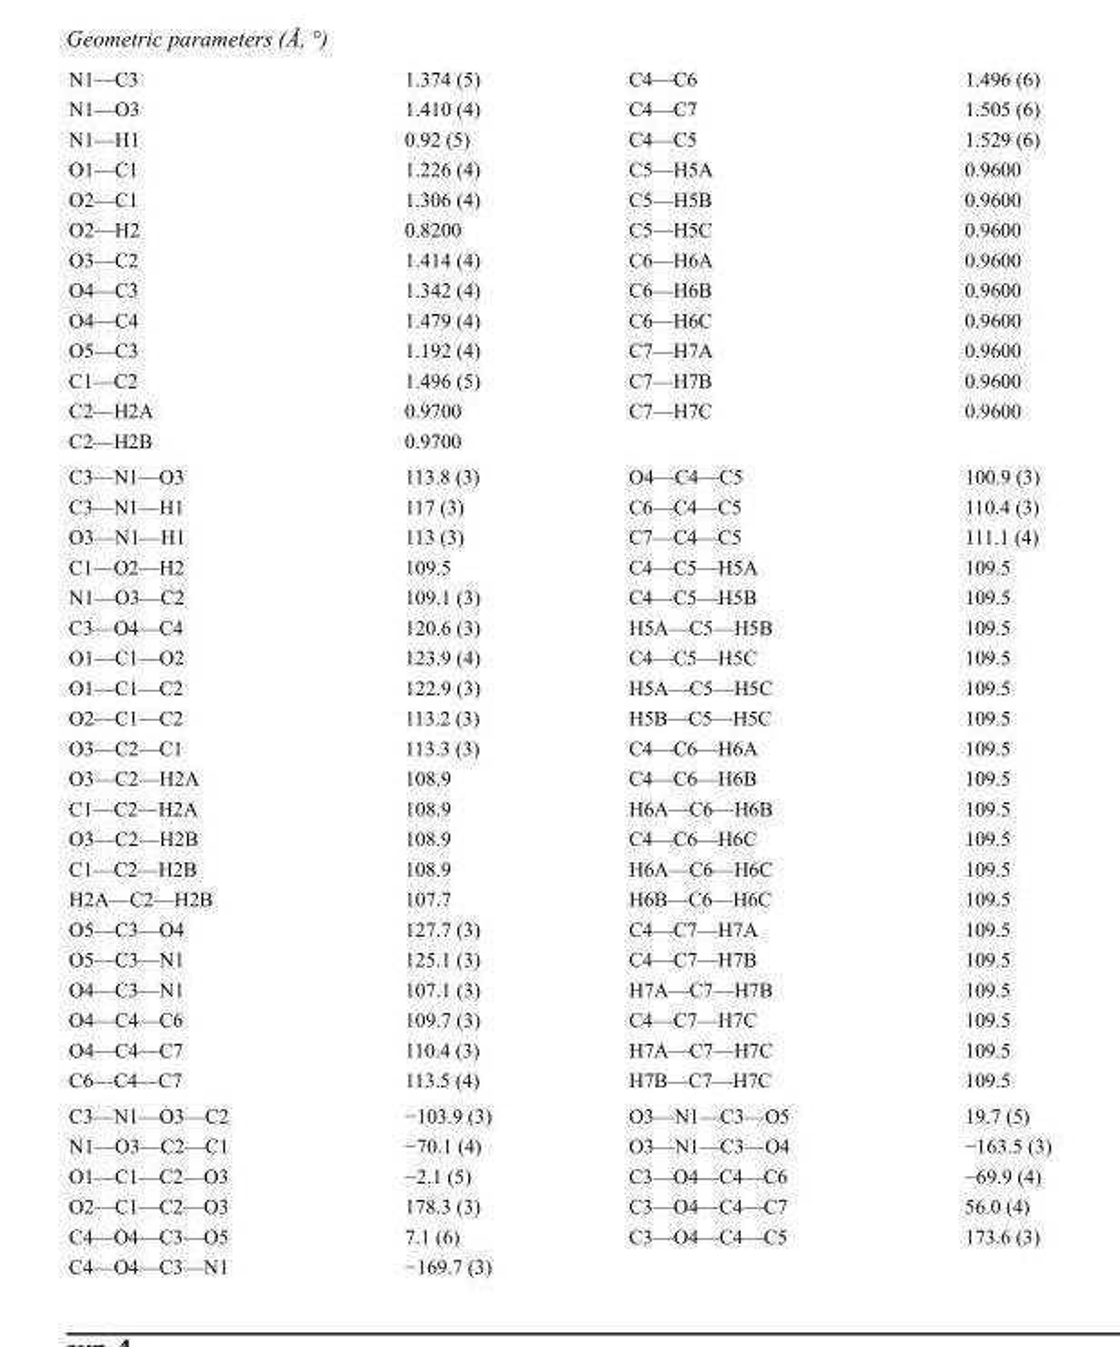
<table><tbody><tr><td>N1—C3</td><td>1.374 (5)</td><td>C4—C6</td><td>1.496 (6)</td></tr><tr><td>N1—O3</td><td>1.410 (4)</td><td>C4—C7</td><td>1.505 (6)</td></tr><tr><td>N1—H1</td><td>0.92 (5)</td><td>C4—C5</td><td>1.529 (6)</td></tr><tr><td>O1—C1</td><td>1.226 (4)</td><td>C5—H5A</td><td>0.9600</td></tr><tr><td>O2—C1</td><td>1.306 (4)</td><td>C5—H5B</td><td>0.9600</td></tr><tr><td>O2—H2</td><td>0.8200</td><td>C5—H5C</td><td>0.9600</td></tr><tr><td>O3—C2</td><td>1.414 (4)</td><td>C6—H6A</td><td>0.9600</td></tr><tr><td>O4—C3</td><td>1.342 (4)</td><td>C6—H6B</td><td>0.9600</td></tr><tr><td>O4—C4</td><td>1.479 (4)</td><td>C6—H6C</td><td>0.9600</td></tr><tr><td>O5—C3</td><td>1.192 (4)</td><td>C7—H7A</td><td>0.9600</td></tr><tr><td>C1—C2</td><td>1.496 (5)</td><td>C7—H7B</td><td>0.9600</td></tr><tr><td>C2—H2A</td><td>0.9700</td><td>C7—H7C</td><td>0.9600</td></tr><tr><td>C2—H2B</td><td>0.9700</td><td></td><td></td></tr><tr><td>C3—N1—O3</td><td>113.8 (3)</td><td>O4—C4—C5</td><td>100.9 (3)</td></tr><tr><td>C3—N1—H1</td><td>117 (3)</td><td>C6—C4—C5</td><td>110.4 (3)</td></tr><tr><td>O3—N1—H1</td><td>113 (3)</td><td>C7—C4—C5</td><td>111.1 (4)</td></tr><tr><td>C1—O2—H2</td><td>109.5</td><td>C4—C5—H5A</td><td>109.5</td></tr><tr><td>N1—O3—C2</td><td>109.1 (3)</td><td>C4—C5—H5B</td><td>109.5</td></tr><tr><td>C3—O4—C4</td><td>120.6 (3)</td><td>H5A—C5—H5B</td><td>109.5</td></tr><tr><td>O1—C1—O2</td><td>123.9 (4)</td><td>C4—C5—H5C</td><td>109.5</td></tr><tr><td>O1—C1—C2</td><td>122.9 (3)</td><td>H5A—C5—H5C</td><td>109.5</td></tr><tr><td>O2—C1—C2</td><td>113.2 (3)</td><td>H5B—C5—H5C</td><td>109.5</td></tr><tr><td>O3—C2—C1</td><td>113.3 (3)</td><td>C4—C6—H6A</td><td>109.5</td></tr><tr><td>O3—C2—H2A</td><td>108.9</td><td>C4—C6—H6B</td><td>109.5</td></tr><tr><td>C1—C2—H2A</td><td>108.9</td><td>H6A—C6—H6B</td><td>109.5</td></tr><tr><td>O3—C2—H2B</td><td>108.9</td><td>C4—C6—H6C</td><td>109.5</td></tr><tr><td>C1—C2—H2B</td><td>108.9</td><td>H6A—C6—H6C</td><td>109.5</td></tr><tr><td>H2A—C2—H2B</td><td>107.7</td><td>H6B—C6—H6C</td><td>109.5</td></tr><tr><td>O5—C3—O4</td><td>127.7 (3)</td><td>C4—C7—H7A</td><td>109.5</td></tr><tr><td>O5—C3—N1</td><td>125.1 (3)</td><td>C4—C7—H7B</td><td>109.5</td></tr><tr><td>O4—C3—N1</td><td>107.1 (3)</td><td>H7A—C7—H7B</td><td>109.5</td></tr><tr><td>O4—C4—C6</td><td>109.7 (3)</td><td>C4—C7—H7C</td><td>109.5</td></tr><tr><td>O4—C4—C7</td><td>110.4 (3)</td><td>H7A—C7—H7C</td><td>109.5</td></tr><tr><td>C6—C4—C7</td><td>113.5 (4)</td><td>H7B—C7—H7C</td><td>109.5</td></tr><tr><td>C3—N1—O3—C2</td><td>−103.9 (3)</td><td>O3—N1—C3—O5</td><td>19.7 (5)</td></tr><tr><td>N1—O3—C2—C1</td><td>−70.1 (4)</td><td>O3—N1—C3—O4</td><td>−163.5 (3)</td></tr><tr><td>O1—C1—C2—O3</td><td>−2.1 (5)</td><td>C3—O4—C4—C6</td><td>−69.9 (4)</td></tr><tr><td>O2—C1—C2—O3</td><td>178.3 (3)</td><td>C3—O4—C4—C7</td><td>56.0 (4)</td></tr><tr><td>C4—O4—C3—O5</td><td>7.1 (6)</td><td>C3—O4—C4—C5</td><td>173.6 (3)</td></tr><tr><td>C4—O4—C3—N1</td><td>−169.7 (3)</td><td></td><td></td></tr></tbody></table>